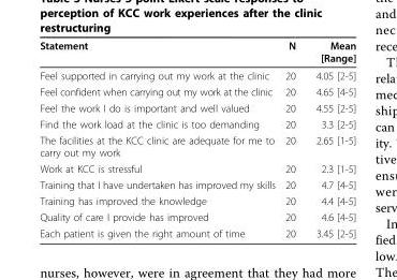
<table><thead><tr><td>Statement</td><td>N</td><td>Mean [Range]</td></tr></thead><tbody><tr><td>Feel supported in carrying out my work at the clinic</td><td>20</td><td>4.05 [2-5]</td></tr><tr><td>Feel confident when carrying out my work at the clinic</td><td>20</td><td>4.65 [4-5]</td></tr><tr><td>Feel the work I do is important and well valued</td><td>20</td><td>4.55 [2-5]</td></tr><tr><td>Find the work load at the clinic is too demanding</td><td>20</td><td>3.3 [2-5]</td></tr><tr><td>The facilities at the KCC clinic are adequate for me to carry out my work</td><td>20</td><td>2.65 [1-5]</td></tr><tr><td>Work at KCC is stressful</td><td>20</td><td>2.3 [1-5]</td></tr><tr><td>Training that I have undertaken has improved my skills</td><td>20</td><td>4.7 [4-5]</td></tr><tr><td>Training has improved the knowledge</td><td>20</td><td>4.4 [4-5]</td></tr><tr><td>Quality of care I provide has improved</td><td>20</td><td>4.6 [4-5]</td></tr><tr><td>Each patient is given the right amount of time</td><td>20</td><td>3.45 [2-5]</td></tr></tbody></table>